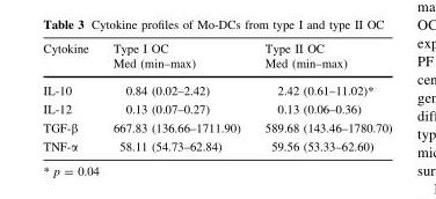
<table><thead><tr><td>Cytokine</td><td>Type I OC Med (min–max)</td><td>Type II OC Med (min–max)</td></tr></thead><tbody><tr><td>IL-10</td><td>0.84 (0.02–2.42)</td><td>2.42 (0.61–11.02)*</td></tr><tr><td>IL-12</td><td>0.13 (0.07–0.27)</td><td>0.13 (0.06–0.36)</td></tr><tr><td>TGF-β</td><td>667.83 (136.66–1711.90)</td><td>589.68 (143.46–1780.70)</td></tr><tr><td>TNF-α</td><td>58.11 (54.73–62.84)</td><td>59.56 (53.33–62.60)</td></tr></tbody></table>